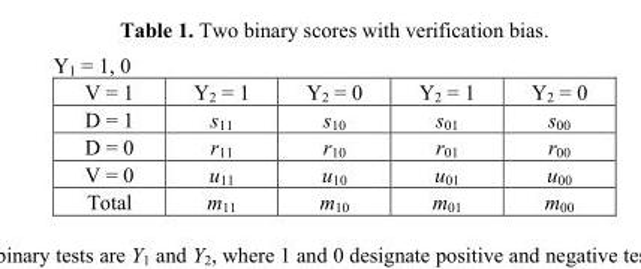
<table><tbody><tr><td colspan="5">Y<sub>1</sub> = 1, 0</td></tr><tr><td>V = 1</td><td>Y<sub>2</sub> = 1</td><td>Y<sub>2</sub> = 0</td><td>Y<sub>2</sub> = 1</td><td>Y<sub>2</sub> = 0</td></tr><tr><td>D = 1</td><td>s<sub>11</sub></td><td>s<sub>10</sub></td><td>s<sub>01</sub></td><td>s<sub>00</sub></td></tr><tr><td>D = 0</td><td>r<sub>11</sub></td><td>r<sub>10</sub></td><td>r<sub>01</sub></td><td>r<sub>00</sub></td></tr><tr><td>V = 0</td><td>u<sub>11</sub></td><td>u<sub>10</sub></td><td>u<sub>01</sub></td><td>u<sub>00</sub></td></tr><tr><td>Total</td><td>m<sub>11</sub></td><td>m<sub>10</sub></td><td>m<sub>01</sub></td><td>m<sub>00</sub></td></tr></tbody></table>